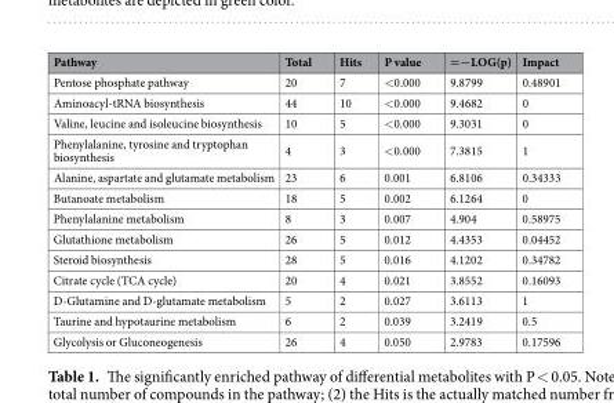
<table><thead><tr><td>Pathway</td><td>Total</td><td>Hits</td><td>P value</td><td>=−LOG(p)</td><td>Impact</td></tr></thead><tbody><tr><td>Pentose phosphate pathway</td><td>20</td><td>7</td><td>&lt;0.000</td><td>9.8799</td><td>0.48901</td></tr><tr><td>Aminoacyl-tRNA biosynthesis</td><td>44</td><td>10</td><td>&lt;0.000</td><td>9.4682</td><td>0</td></tr><tr><td>Valine, leucine and isoleucine biosynthesis</td><td>10</td><td>5</td><td>&lt;0.000</td><td>9.3031</td><td>0</td></tr><tr><td>Phenylalanine, tyrosine and tryptophan biosynthesis</td><td>4</td><td>3</td><td>&lt;0.000</td><td>7.3815</td><td>1</td></tr><tr><td>Alanine, aspartate and glutamate metabolism</td><td>23</td><td>6</td><td>0.001</td><td>6.8106</td><td>0.34333</td></tr><tr><td>Butanoate metabolism</td><td>18</td><td>5</td><td>0.002</td><td>6.1264</td><td>0</td></tr><tr><td>Phenylalanine metabolism</td><td>8</td><td>3</td><td>0.007</td><td>4.904</td><td>0.58975</td></tr><tr><td>Glutathione metabolism</td><td>26</td><td>5</td><td>0.012</td><td>4.4353</td><td>0.04452</td></tr><tr><td>Steroid biosynthesis</td><td>28</td><td>5</td><td>0.016</td><td>4.1202</td><td>0.34782</td></tr><tr><td>Citrate cycle (TCA cycle)</td><td>20</td><td>4</td><td>0.021</td><td>3.8552</td><td>0.16093</td></tr><tr><td>D-Glutamine and D-glutamate metabolism</td><td>5</td><td>2</td><td>0.027</td><td>3.6113</td><td>1</td></tr><tr><td>Taurine and hypotaurine metabolism</td><td>6</td><td>2</td><td>0.039</td><td>3.2419</td><td>0.5</td></tr><tr><td>Glycolysis or Gluconeogenesis</td><td>26</td><td>4</td><td>0.050</td><td>2.9783</td><td>0.17596</td></tr></tbody></table>